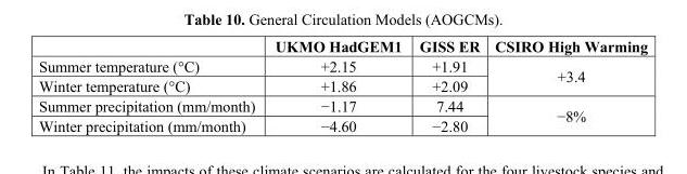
<table><thead><tr><td></td><td>UKMO HadGEM1</td><td>GISS ER</td><td>CSIRO High Warming</td></tr></thead><tbody><tr><td>Summer temperature (°C)</td><td>+2.15</td><td>+1.91</td><td rowspan="2">+3.4</td></tr><tr><td>Winter temperature (°C)</td><td>+1.86</td><td>+2.09</td></tr><tr><td>Summer precipitation (mm/month)</td><td>−1.17</td><td>7.44</td><td rowspan="2">−8%</td></tr><tr><td>Winter precipitation (mm/month)</td><td>−4.60</td><td>−2.80</td></tr></tbody></table>